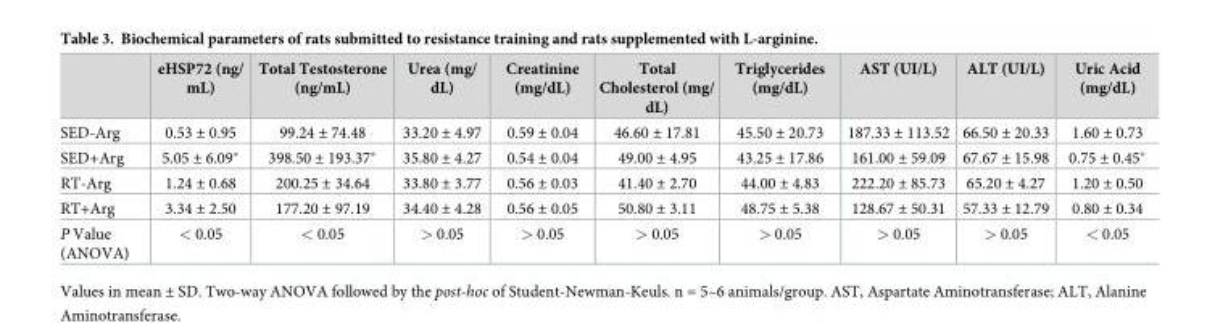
<table><thead><tr><td></td><td>eHSP72 (ng/ mL)</td><td>Total Testosterone (ng/mL)</td><td>Urea (mg/ dL)</td><td>Creatinine (mg/dL)</td><td>Total Cholesterol (mg/ dL)</td><td>Triglycerides (mg/dL)</td><td>AST (UI/L)</td><td>ALT (UI/L)</td><td>Uric Acid (mg/dL)</td></tr></thead><tbody><tr><td>SED-Arg</td><td>0.53 ± 0.95</td><td>99.24 ± 74.48</td><td>33.20 ± 4.97</td><td>0.59 ± 0.04</td><td>46.60 ± 17.81</td><td>45.50 ± 20.73</td><td>187.33 ± 113.52</td><td>66.50 ± 20.33</td><td>1.60 ± 0.73</td></tr><tr><td>SED+Arg</td><td>5.05 ± 6.09*</td><td>398.50 ± 193.37*</td><td>35.80 ± 4.27</td><td>0.54 ± 0.04</td><td>49.00 ± 4.95</td><td>43.25 ± 17.86</td><td>161.00 ± 59.09</td><td>67.67 ± 15.98</td><td>0.75 ± 0.45*</td></tr><tr><td>RT-Arg</td><td>1.24 ± 0.68</td><td>200.25 ± 34.64</td><td>33.80 ± 3.77</td><td>0.56 ± 0.03</td><td>41.40 ± 2.70</td><td>44.00 ± 4.83</td><td>222.20 ± 85.73</td><td>65.20 ± 4.27</td><td>1.20 ± 0.50</td></tr><tr><td>RT+Arg</td><td>3.34 ± 2.50</td><td>177.20 ± 97.19</td><td>34.40 ± 4.28</td><td>0.56 ± 0.05</td><td>50.80 ± 3.11</td><td>48.75 ± 5.38</td><td>128.67 ± 50.31</td><td>57.33 ± 12.79</td><td>0.80 ± 0.34</td></tr><tr><td>P Value (ANOVA)</td><td>&lt; 0.05</td><td>&lt; 0.05</td><td>&gt; 0.05</td><td>&gt; 0.05</td><td>&gt; 0.05</td><td>&gt; 0.05</td><td>&gt; 0.05</td><td>&gt; 0.05</td><td>&lt; 0.05</td></tr></tbody></table>